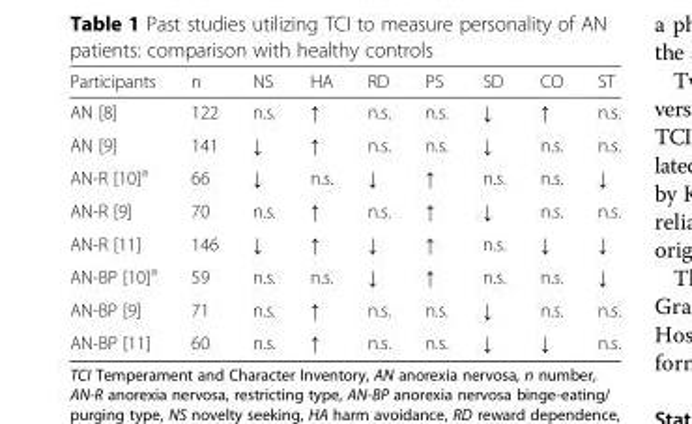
<table><thead><tr><td>Participants</td><td>n</td><td>NS</td><td>HA</td><td>RD</td><td>PS</td><td>SD</td><td>CO</td><td>ST</td></tr></thead><tbody><tr><td>AN [8]</td><td>122</td><td>n.s.</td><td>↑</td><td>n.s.</td><td>n.s.</td><td>↓</td><td>↑</td><td>n.s.</td></tr><tr><td>AN [9]</td><td>141</td><td>↓</td><td>↑</td><td>n.s.</td><td>n.s.</td><td>↓</td><td>n.s.</td><td>n.s.</td></tr><tr><td>AN-R [10]<sup>a</sup></td><td>66</td><td>↓</td><td>n.s.</td><td>↓</td><td>↑</td><td>n.s.</td><td>n.s.</td><td>↓</td></tr><tr><td>AN-R [9]</td><td>70</td><td>n.s.</td><td>↑</td><td>n.s.</td><td>↑</td><td>↓</td><td>n.s.</td><td>n.s.</td></tr><tr><td>AN-R [11]</td><td>146</td><td>↓</td><td>↑</td><td>↓</td><td>↑</td><td>n.s.</td><td>↓</td><td>↓</td></tr><tr><td>AN-BP [10]<sup>a</sup></td><td>59</td><td>n.s.</td><td>n.s.</td><td>↓</td><td>↑</td><td>n.s.</td><td>n.s.</td><td>↓</td></tr><tr><td>AN-BP [9]</td><td>71</td><td>n.s.</td><td>↑</td><td>n.s.</td><td>n.s.</td><td>↓</td><td>n.s.</td><td>n.s.</td></tr><tr><td>AN-BP [11]</td><td>60</td><td>n.s.</td><td>↑</td><td>n.s.</td><td>n.s.</td><td>↓</td><td>↓</td><td>n.s.</td></tr></tbody></table>